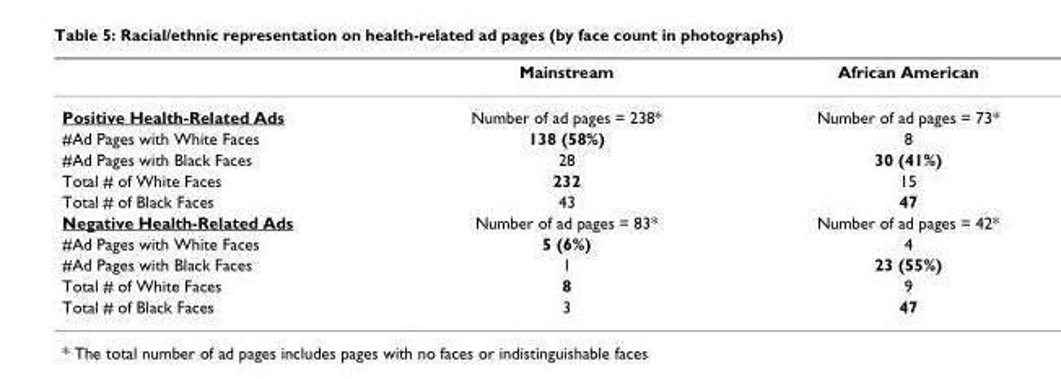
<table><thead><tr><td></td><td>Mainstream</td><td>African American</td></tr></thead><tbody><tr><td>Positive Health-Related Ads</td><td>Number of ad pages = 238*</td><td>Number of ad pages = 73*</td></tr><tr><td>#Ad Pages with White Faces</td><td>138 (58%)</td><td>8</td></tr><tr><td>#Ad Pages with Black Faces</td><td>28</td><td>30 (41%)</td></tr><tr><td>Total # of White Faces</td><td>232</td><td>15</td></tr><tr><td>Total # of Black Faces</td><td>43</td><td>47</td></tr><tr><td>Negative Health-Related Ads</td><td>Number of ad pages = 83*</td><td>Number of ad pages = 42*</td></tr><tr><td>#Ad Pages with White Faces</td><td>5 (6%)</td><td>4</td></tr><tr><td>#Ad Pages with Black Faces</td><td>1</td><td>23 (55%)</td></tr><tr><td>Total # of White Faces</td><td>8</td><td>9</td></tr><tr><td>Total # of Black Faces</td><td>3</td><td>47</td></tr></tbody></table>